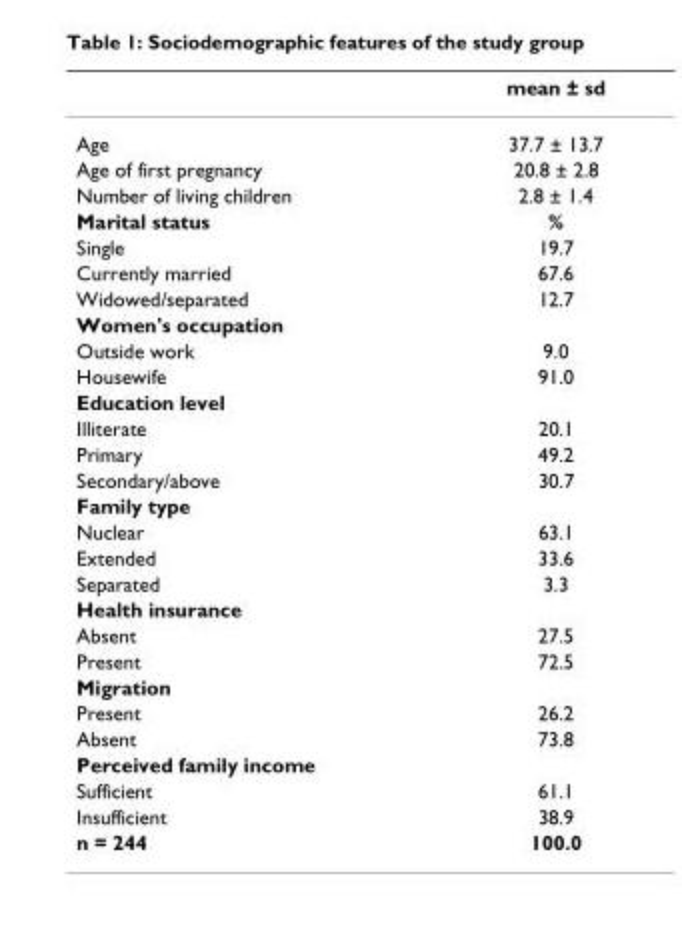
<table><thead><tr><td></td><td>mean ± sd</td></tr></thead><tbody><tr><td>Age</td><td>37.7 ± 13.7</td></tr><tr><td>Age of first pregnancy</td><td>20.8 ± 2.8</td></tr><tr><td>Number of living children</td><td>2.8 ± 1.4</td></tr><tr><td>Marital status</td><td>%</td></tr><tr><td>Single</td><td>19.7</td></tr><tr><td>Currently married</td><td>67.6</td></tr><tr><td>Widowed/separated</td><td>12.7</td></tr><tr><td colspan="2">Women&#x27;s occupation</td></tr><tr><td>Outside work</td><td>9.0</td></tr><tr><td>Housewife</td><td>91.0</td></tr><tr><td colspan="2">Education level</td></tr><tr><td>Illiterate</td><td>20.1</td></tr><tr><td>Primary</td><td>49.2</td></tr><tr><td>Secondary/above</td><td>30.7</td></tr><tr><td colspan="2">Family type</td></tr><tr><td>Nuclear</td><td>63.1</td></tr><tr><td>Extended</td><td>33.6</td></tr><tr><td>Separated</td><td>3.3</td></tr><tr><td colspan="2">Health insurance</td></tr><tr><td>Absent</td><td>27.5</td></tr><tr><td>Present</td><td>72.5</td></tr><tr><td colspan="2">Migration</td></tr><tr><td>Present</td><td>26.2</td></tr><tr><td>Absent</td><td>73.8</td></tr><tr><td colspan="2">Perceived family income</td></tr><tr><td>Sufficient</td><td>61.1</td></tr><tr><td>Insufficient</td><td>38.9</td></tr><tr><td>n = 244</td><td>100.0</td></tr></tbody></table>